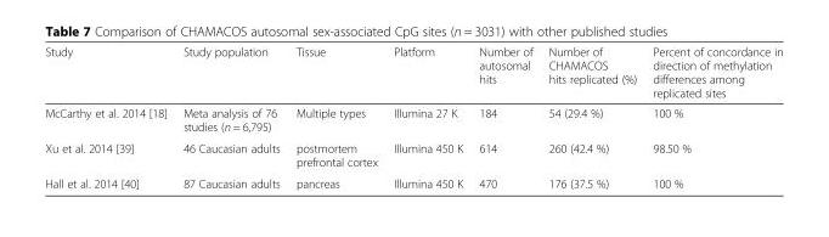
<table><thead><tr><td>Study</td><td>Study population</td><td>Tissue</td><td>Platform</td><td>Number of autosomal hits</td><td>Number of CHAMACOS hits replicated (%)</td><td>Percent of concordance in direction of methylation differences among replicated sites</td></tr></thead><tbody><tr><td>McCarthy et al. 2014 [18]</td><td>Meta analysis of 76 studies (n = 6,795)</td><td>Multiple types</td><td>Illumina 27 K</td><td>184</td><td>54 (29.4 %)</td><td>100 %</td></tr><tr><td>Xu et al. 2014 [39]</td><td>46 Caucasian adults</td><td>postmortem prefrontal cortex</td><td>Illumina 450 K</td><td>614</td><td>260 (42.4 %)</td><td>98.50 %</td></tr><tr><td>Hall et al. 2014 [40]</td><td>87 Caucasian adults</td><td>pancreas</td><td>Illumina 450 K</td><td>470</td><td>176 (37.5 %)</td><td>100 %</td></tr></tbody></table>